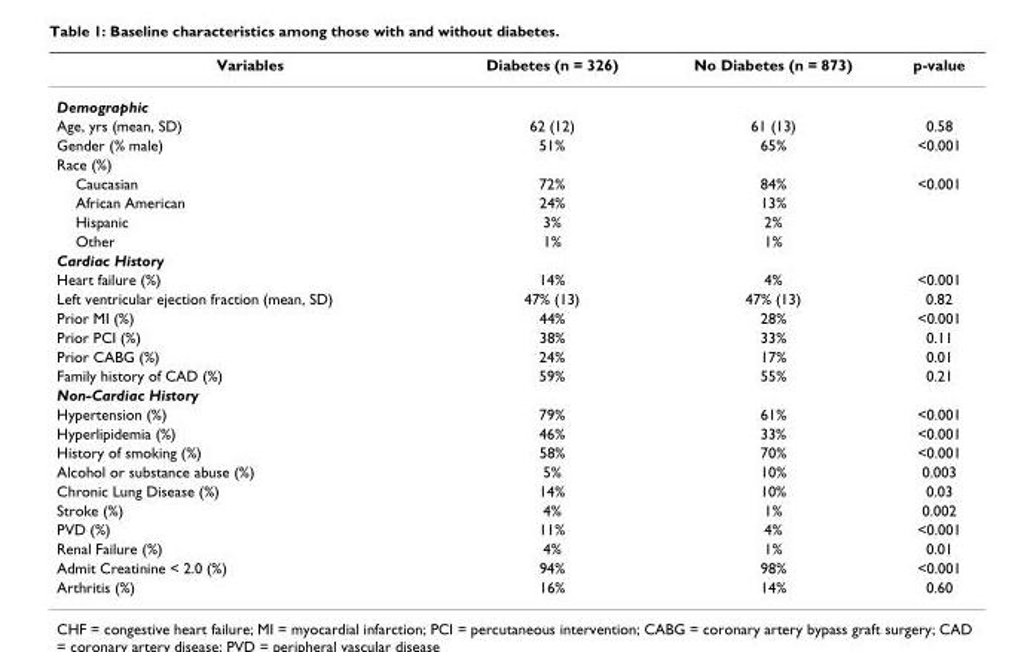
<table><thead><tr><td>Variables</td><td>Diabetes (n = 326)</td><td>No Diabetes (n = 873)</td><td>p-value</td></tr></thead><tbody><tr><td colspan="4">Demographic</td></tr><tr><td>Age, yrs (mean, SD)</td><td>62 (12)</td><td>61 (13)</td><td>0.58</td></tr><tr><td>Gender (% male)</td><td>51%</td><td>65%</td><td>&lt;0.001</td></tr><tr><td colspan="4">Race (%)</td></tr><tr><td>Caucasian</td><td>72%</td><td>84%</td><td>&lt;0.001</td></tr><tr><td>African American</td><td>24%</td><td>13%</td><td></td></tr><tr><td>Hispanic</td><td>3%</td><td>2%</td><td></td></tr><tr><td>Other</td><td>1%</td><td>1%</td><td></td></tr><tr><td colspan="4">Cardiac History</td></tr><tr><td>Heart failure (%)</td><td>14%</td><td>4%</td><td>&lt;0.001</td></tr><tr><td>Left ventricular ejection fraction (mean, SD)</td><td>47% (13)</td><td>47% (13)</td><td>0.82</td></tr><tr><td>Prior MI (%)</td><td>44%</td><td>28%</td><td>&lt;0.001</td></tr><tr><td>Prior PCI (%)</td><td>38%</td><td>33%</td><td>0.11</td></tr><tr><td>Prior CABG (%)</td><td>24%</td><td>17%</td><td>0.01</td></tr><tr><td>Family history of CAD (%)</td><td>59%</td><td>55%</td><td>0.21</td></tr><tr><td colspan="4">Non-Cardiac History</td></tr><tr><td>Hypertension (%)</td><td>79%</td><td>61%</td><td>&lt;0.001</td></tr><tr><td>Hyperlipidemia (%)</td><td>46%</td><td>33%</td><td>&lt;0.001</td></tr><tr><td>History of smoking (%)</td><td>58%</td><td>70%</td><td>&lt;0.001</td></tr><tr><td>Alcohol or substance abuse (%)</td><td>5%</td><td>10%</td><td>0.003</td></tr><tr><td>Chronic Lung Disease (%)</td><td>14%</td><td>10%</td><td>0.03</td></tr><tr><td>Stroke (%)</td><td>4%</td><td>1%</td><td>0.002</td></tr><tr><td>PVD (%)</td><td>11%</td><td>4%</td><td>&lt;0.001</td></tr><tr><td>Renal Failure (%)</td><td>4%</td><td>1%</td><td>0.01</td></tr><tr><td>Admit Creatinine &lt; 2.0 (%)</td><td>94%</td><td>98%</td><td>&lt;0.001</td></tr><tr><td>Arthritis (%)</td><td>16%</td><td>14%</td><td>0.60</td></tr></tbody></table>